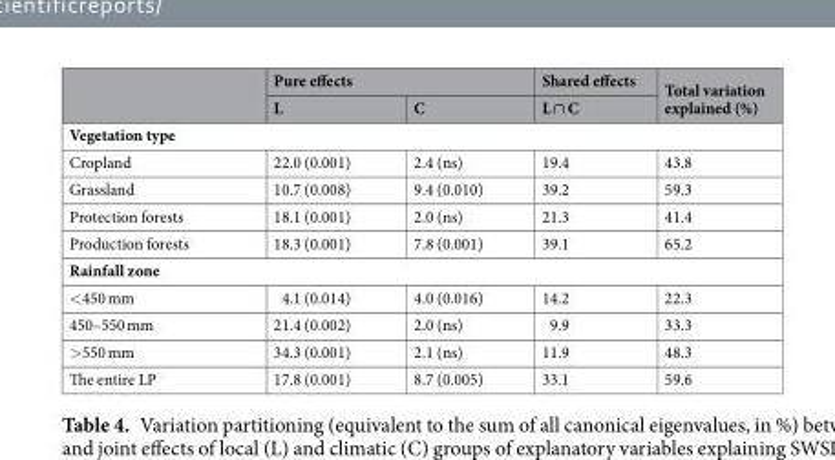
<table><thead><tr><td rowspan="2"></td><td colspan="2">Pure effects</td><td rowspan="2">Shared effects L ∩ C</td><td rowspan="2">Total variation explained (%)</td></tr><tr><td>L</td><td>C</td></tr></thead><tbody><tr><td colspan="5">Vegetation type</td></tr><tr><td>Cropland</td><td>22.0 (0.001)</td><td>2.4 (ns)</td><td>19.4</td><td>43.8</td></tr><tr><td>Grassland</td><td>10.7 (0.008)</td><td>9.4 (0.010)</td><td>39.2</td><td>59.3</td></tr><tr><td>Protection forests</td><td>18.1 (0.001)</td><td>2.0 (ns)</td><td>21.3</td><td>41.4</td></tr><tr><td>Production forests</td><td>18.3 (0.001)</td><td>7.8 (0.001)</td><td>39.1</td><td>65.2</td></tr><tr><td colspan="5">Rainfall zone</td></tr><tr><td>&lt;450 mm</td><td>4.1 (0.014)</td><td>4.0 (0.016)</td><td>14.2</td><td>22.3</td></tr><tr><td>450–550 mm</td><td>21.4 (0.002)</td><td>2.0 (ns)</td><td>9.9</td><td>33.3</td></tr><tr><td>&gt;550 mm</td><td>34.3 (0.001)</td><td>2.1 (ns)</td><td>11.9</td><td>48.3</td></tr><tr><td>The entire LP</td><td>17.8 (0.001)</td><td>8.7 (0.005)</td><td>33.1</td><td>59.6</td></tr></tbody></table>